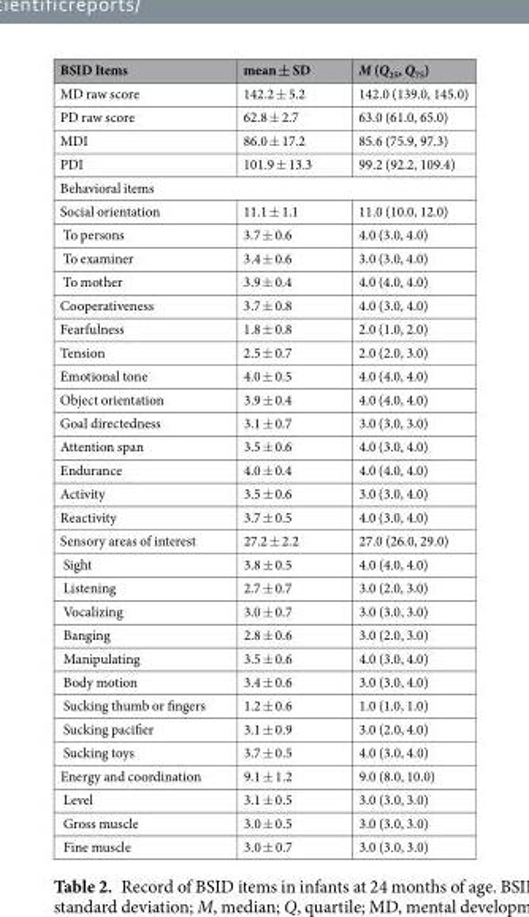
<table><thead><tr><td>BSID Items</td><td>mean ± SD</td><td>M (Q<sub>25</sub>, Q<sub>75</sub>)</td></tr></thead><tbody><tr><td>MD raw score</td><td>142.2 ± 5.2</td><td>142.0 (139.0, 145.0)</td></tr><tr><td>PD raw score</td><td>62.8 ± 2.7</td><td>63.0 (61.0, 65.0)</td></tr><tr><td>MDI</td><td>86.0 ± 17.2</td><td>85.6 (75.9, 97.3)</td></tr><tr><td>PDI</td><td>101.9 ± 13.3</td><td>99.2 (92.2, 109.4)</td></tr><tr><td colspan="3">Behavioral items</td></tr><tr><td>Social orientation</td><td>11.1 ± 1.1</td><td>11.0 (10.0, 12.0)</td></tr><tr><td>To persons</td><td>3.7 ± 0.6</td><td>4.0 (3.0, 4.0)</td></tr><tr><td>To examiner</td><td>3.4 ± 0.6</td><td>3.0 (3.0, 4.0)</td></tr><tr><td>To mother</td><td>3.9 ± 0.4</td><td>4.0 (4.0, 4.0)</td></tr><tr><td>Cooperativeness</td><td>3.7 ± 0.8</td><td>4.0 (3.0, 4.0)</td></tr><tr><td>Fearfulness</td><td>1.8 ± 0.8</td><td>2.0 (1.0, 2.0)</td></tr><tr><td>Tension</td><td>2.5 ± 0.7</td><td>2.0 (2.0, 3.0)</td></tr><tr><td>Emotional tone</td><td>4.0 ± 0.5</td><td>4.0 (4.0, 4.0)</td></tr><tr><td>Object orientation</td><td>3.9 ± 0.4</td><td>4.0 (4.0, 4.0)</td></tr><tr><td>Goal directedness</td><td>3.1 ± 0.7</td><td>3.0 (3.0, 3.0)</td></tr><tr><td>Attention span</td><td>3.5 ± 0.6</td><td>4.0 (3.0, 4.0)</td></tr><tr><td>Endurance</td><td>4.0 ± 0.4</td><td>4.0 (4.0, 4.0)</td></tr><tr><td>Activity</td><td>3.5 ± 0.6</td><td>3.0 (3.0, 4.0)</td></tr><tr><td>Reactivity</td><td>3.7 ± 0.5</td><td>4.0 (3.0, 4.0)</td></tr><tr><td>Sensory areas of interest</td><td>27.2 ± 2.2</td><td>27.0 (26.0, 29.0)</td></tr><tr><td>Sight</td><td>3.8 ± 0.5</td><td>4.0 (4.0, 4.0)</td></tr><tr><td>Listening</td><td>2.7 ± 0.7</td><td>3.0 (2.0, 3.0)</td></tr><tr><td>Vocalizing</td><td>3.0 ± 0.7</td><td>3.0 (3.0, 3.0)</td></tr><tr><td>Banging</td><td>2.8 ± 0.6</td><td>3.0 (2.0, 3.0)</td></tr><tr><td>Manipulating</td><td>3.5 ± 0.6</td><td>4.0 (3.0, 4.0)</td></tr><tr><td>Body motion</td><td>3.4 ± 0.6</td><td>3.0 (3.0, 4.0)</td></tr><tr><td>Sucking thumb or fingers</td><td>1.2 ± 0.6</td><td>1.0 (1.0, 1.0)</td></tr><tr><td>Sucking pacifier</td><td>3.1 ± 0.9</td><td>3.0 (2.0, 4.0)</td></tr><tr><td>Sucking toys</td><td>3.7 ± 0.5</td><td>4.0 (3.0, 4.0)</td></tr><tr><td>Energy and coordination</td><td>9.1 ± 1.2</td><td>9.0 (8.0, 10.0)</td></tr><tr><td>Level</td><td>3.1 ± 0.5</td><td>3.0 (3.0, 3.0)</td></tr><tr><td>Gross muscle</td><td>3.0 ± 0.5</td><td>3.0 (3.0, 3.0)</td></tr><tr><td>Fine muscle</td><td>3.0 ± 0.7</td><td>3.0 (3.0, 3.0)</td></tr></tbody></table>